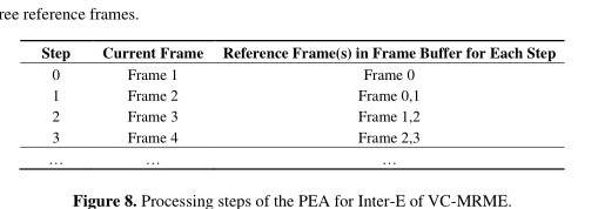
<table><thead><tr><td>Step</td><td>Current Frame</td><td>Reference Frame(s) in Frame Buffer for Each Step</td></tr></thead><tbody><tr><td>0</td><td>Frame 1</td><td>Frame 0</td></tr><tr><td>1</td><td>Frame 2</td><td>Frame 0,1</td></tr><tr><td>2</td><td>Frame 3</td><td>Frame 1,2</td></tr><tr><td>3</td><td>Frame 4</td><td>Frame 2,3</td></tr><tr><td>…</td><td>…</td><td>…</td></tr></tbody></table>